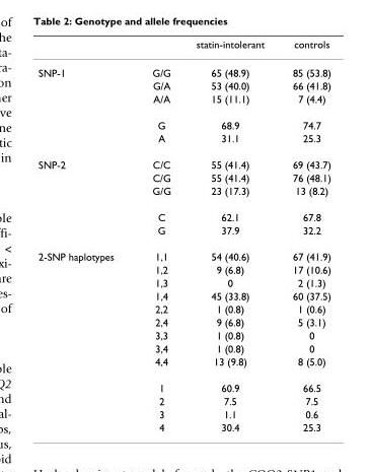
<table><thead><tr><td></td><td></td><td>statin-intolerant</td><td>controls</td></tr></thead><tbody><tr><td rowspan="5">SNP-1</td><td>G/G</td><td>65 (48.9)</td><td>85 (53.8)</td></tr><tr><td>G/A</td><td>53 (40.0)</td><td>66 (41.8)</td></tr><tr><td>A/A</td><td>15 (11.1)</td><td>7 (4.4)</td></tr><tr><td>G</td><td>68.9</td><td>74.7</td></tr><tr><td>A</td><td>31.1</td><td>25.3</td></tr><tr><td rowspan="5">SNP-2</td><td>C/C</td><td>55 (41.4)</td><td>69 (43.7)</td></tr><tr><td>C/G</td><td>55 (41.4)</td><td>76 (48.1)</td></tr><tr><td>G/G</td><td>23 (17.3)</td><td>13 (8.2)</td></tr><tr><td>C</td><td>62.1</td><td>67.8</td></tr><tr><td>G</td><td>37.9</td><td>32.2</td></tr><tr><td rowspan="13">2-SNP haplotypes</td><td>1,1</td><td>54 (40.6)</td><td>67 (41.9)</td></tr><tr><td>1,2</td><td>9 (6.8)</td><td>17 (10.6)</td></tr><tr><td>1,3</td><td>0</td><td>2 (1.3)</td></tr><tr><td>1,4</td><td>45 (33.8)</td><td>60 (37.5)</td></tr><tr><td>2,2</td><td>1 (0.8)</td><td>1 (0.6)</td></tr><tr><td>2,4</td><td>9 (6.8)</td><td>5 (3.1)</td></tr><tr><td>3,3</td><td>1 (0.8)</td><td>0</td></tr><tr><td>3,4</td><td>1 (0.8)</td><td>0</td></tr><tr><td>4,4</td><td>13 (9.8)</td><td>8 (5.0)</td></tr><tr><td>1</td><td>60.9</td><td>66.5</td></tr><tr><td>2</td><td>7.5</td><td>7.5</td></tr><tr><td>3</td><td>1.1</td><td>0.6</td></tr><tr><td>4</td><td>30.4</td><td>25.3</td></tr></tbody></table>